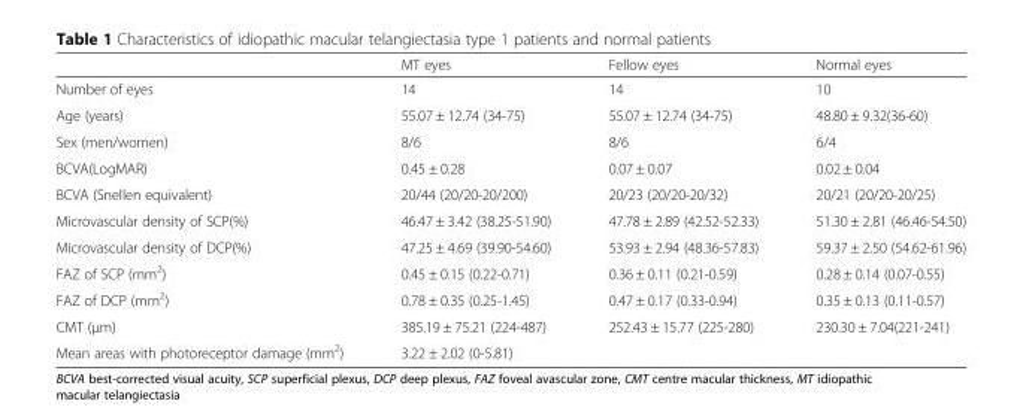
<table><thead><tr><td></td><td>MT eyes</td><td>Fellow eyes</td><td>Normal eyes</td></tr></thead><tbody><tr><td>Number of eyes</td><td>14</td><td>14</td><td>10</td></tr><tr><td>Age (years)</td><td>55.07 ± 12.74 (34-75)</td><td>55.07 ± 12.74 (34-75)</td><td>48.80 ± 9.32(36-60)</td></tr><tr><td>Sex (men/women)</td><td>8/6</td><td>8/6</td><td>6/4</td></tr><tr><td>BCVA(LogMAR)</td><td>0.45 ± 0.28</td><td>0.07 ± 0.07</td><td>0.02 ± 0.04</td></tr><tr><td>BCVA (Snellen equivalent)</td><td>20/44 (20/20-20/200)</td><td>20/23 (20/20-20/32)</td><td>20/21 (20/20-20/25)</td></tr><tr><td>Microvascular density of SCP(%)</td><td>46.47 ± 3.42 (38.25-51.90)</td><td>47.78 ± 2.89 (42.52-52.33)</td><td>51.30 ± 2.81 (46.46-54.50)</td></tr><tr><td>Microvascular density of DCP(%)</td><td>47.25 ± 4.69 (39.90-54.60)</td><td>53.93 ± 2.94 (48.36-57.83)</td><td>59.37 ± 2.50 (54.62-61.96)</td></tr><tr><td>FAZ of SCP (mm<sup>2</sup>)</td><td>0.45 ± 0.15 (0.22-0.71)</td><td>0.36 ± 0.11 (0.21-0.59)</td><td>0.28 ± 0.14 (0.07-0.55)</td></tr><tr><td>FAZ of DCP (mm<sup>2</sup>)</td><td>0.78 ± 0.35 (0.25-1.45)</td><td>0.47 ± 0.17 (0.33-0.94)</td><td>0.35 ± 0.13 (0.11-0.57)</td></tr><tr><td>CMT (μm)</td><td>385.19 ± 75.21 (224-487)</td><td>252.43 ± 15.77 (225-280)</td><td>230.30 ± 7.04(221-241)</td></tr><tr><td>Mean areas with photoreceptor damage (mm<sup>2</sup>)</td><td>3.22 ± 2.02 (0-5.81)</td><td></td><td></td></tr></tbody></table>